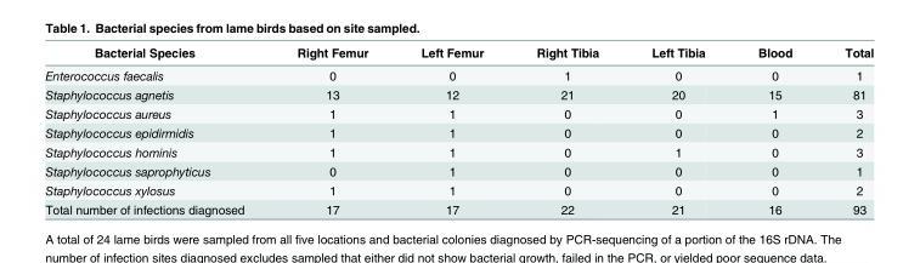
<table><thead><tr><td>Bacterial Species</td><td>Right Femur</td><td>Left Femur</td><td>Right Tibia</td><td>Left Tibia</td><td>Blood</td><td>Total</td></tr></thead><tbody><tr><td>Enterococcus faecalis</td><td>0</td><td>0</td><td>1</td><td>0</td><td>0</td><td>1</td></tr><tr><td>Staphylococcus agnetis</td><td>13</td><td>12</td><td>21</td><td>20</td><td>15</td><td>81</td></tr><tr><td>Staphylococcus aureus</td><td>1</td><td>1</td><td>0</td><td>0</td><td>1</td><td>3</td></tr><tr><td>Staphylococcus epidirmidis</td><td>1</td><td>1</td><td>0</td><td>0</td><td>0</td><td>2</td></tr><tr><td>Staphylococcus hominis</td><td>1</td><td>1</td><td>0</td><td>1</td><td>0</td><td>3</td></tr><tr><td>Staphylococcus saprophyticus</td><td>0</td><td>1</td><td>0</td><td>0</td><td>0</td><td>1</td></tr><tr><td>Staphylococcus xylosus</td><td>1</td><td>1</td><td>0</td><td>0</td><td>0</td><td>2</td></tr><tr><td>Total number of infections diagnosed</td><td>17</td><td>17</td><td>22</td><td>21</td><td>16</td><td>93</td></tr></tbody></table>